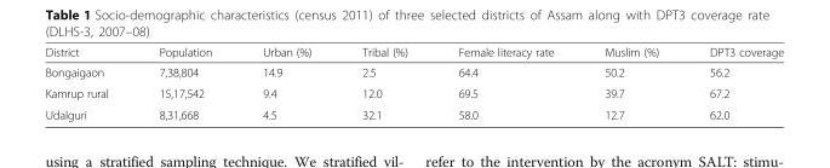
<table><thead><tr><td>District</td><td>Population</td><td>Urban (%)</td><td>Tribal (%)</td><td>Female literacy rate</td><td>Muslim (%)</td><td>DPT3 coverage</td></tr></thead><tbody><tr><td>Bongaigaon</td><td>7,38,804</td><td>14.9</td><td>2.5</td><td>64.4</td><td>50.2</td><td>56.2</td></tr><tr><td>Kamrup rural</td><td>15,17,542</td><td>9.4</td><td>12.0</td><td>69.5</td><td>39.7</td><td>67.2</td></tr><tr><td>Udalguri</td><td>8,31,668</td><td>4.5</td><td>32.1</td><td>58.0</td><td>12.7</td><td>62.0</td></tr></tbody></table>